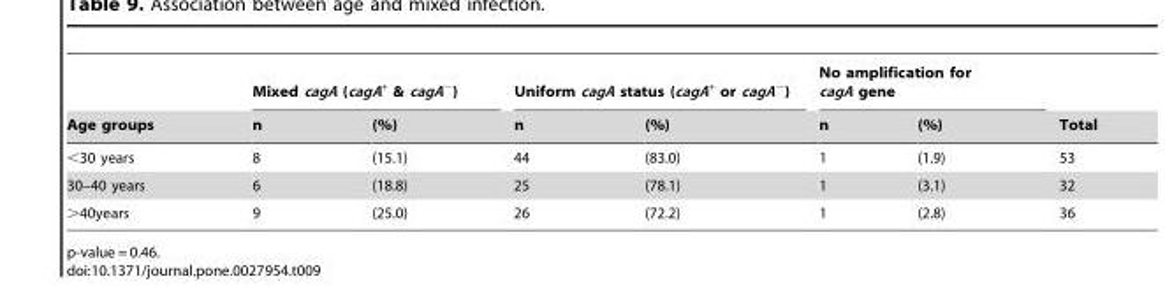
<table><thead><tr><td rowspan="2">Age groups</td><td colspan="2">Mixed cagA (cagA<sup>+</sup> &amp; cagA<sup>−</sup>)</td><td colspan="2">Uniform cagA status (cagA<sup>+</sup> or cagA<sup>−</sup>)</td><td colspan="2">No amplification for cagA gene</td><td rowspan="2">Total</td></tr><tr><td>n</td><td>(%)</td><td>n</td><td>(%)</td><td>n</td><td>(%)</td></tr></thead><tbody><tr><td>&lt;30 years</td><td>8</td><td>(15.1)</td><td>44</td><td>(83.0)</td><td>1</td><td>(1.9)</td><td>53</td></tr><tr><td>30–40 years</td><td>6</td><td>(18.8)</td><td>25</td><td>(78.1)</td><td>1</td><td>(3.1)</td><td>32</td></tr><tr><td>&gt;40years</td><td>9</td><td>(25.0)</td><td>26</td><td>(72.2)</td><td>1</td><td>(2.8)</td><td>36</td></tr></tbody></table>